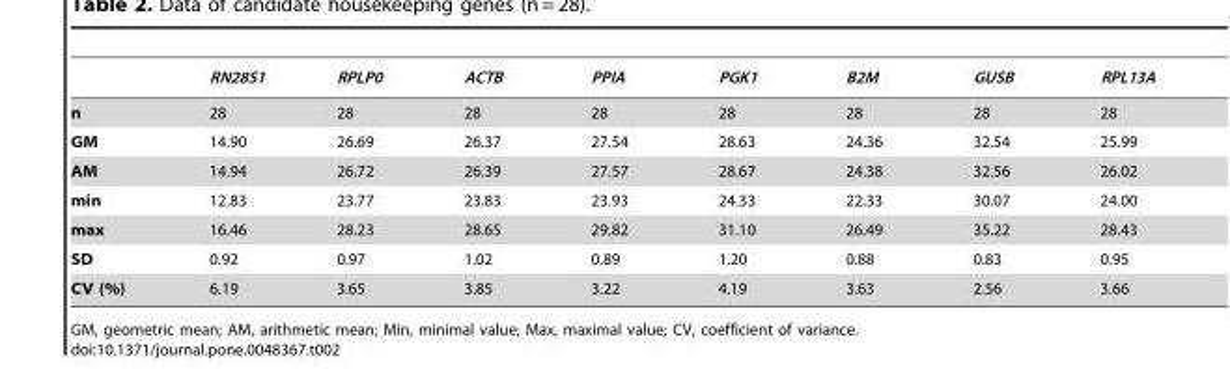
<table><thead><tr><td></td><td>RN28S1</td><td>RPLP0</td><td>ACTB</td><td>PPIA</td><td>PGK1</td><td>B2M</td><td>GUSB</td><td>RPL13A</td></tr></thead><tbody><tr><td>n</td><td>28</td><td>28</td><td>28</td><td>28</td><td>28</td><td>28</td><td>28</td><td>28</td></tr><tr><td>GM</td><td>14.90</td><td>26.69</td><td>26.37</td><td>27.54</td><td>28.63</td><td>24.36</td><td>32.54</td><td>25.99</td></tr><tr><td>AM</td><td>14.94</td><td>26.72</td><td>26.39</td><td>27.57</td><td>28.67</td><td>24.38</td><td>32.56</td><td>26.02</td></tr><tr><td>min</td><td>12.83</td><td>23.77</td><td>23.83</td><td>23.93</td><td>24.33</td><td>22.33</td><td>30.07</td><td>24.00</td></tr><tr><td>max</td><td>16.46</td><td>28.23</td><td>28.65</td><td>29.82</td><td>31.10</td><td>26.49</td><td>35.22</td><td>28.43</td></tr><tr><td>SD</td><td>0.92</td><td>0.97</td><td>1.02</td><td>0.89</td><td>1.20</td><td>0.88</td><td>0.83</td><td>0.95</td></tr><tr><td>CV (%)</td><td>6.19</td><td>3.65</td><td>3.85</td><td>3.22</td><td>4.19</td><td>3.63</td><td>2.56</td><td>3.66</td></tr></tbody></table>